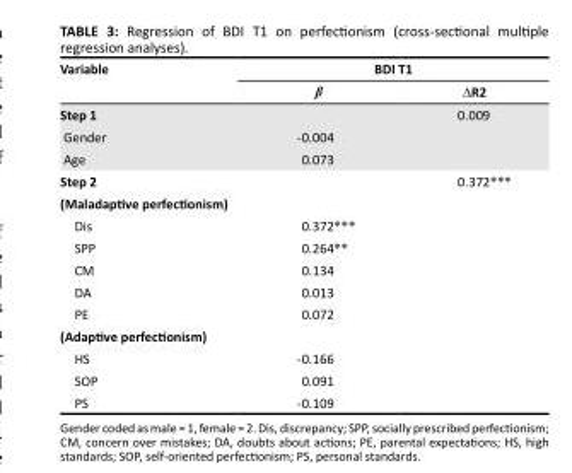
<table><thead><tr><td rowspan="2">Variable</td><td colspan="2">BDI T1</td></tr><tr><td>β</td><td>∆R2</td></tr></thead><tbody><tr><td>Step 1</td><td></td><td>0.009</td></tr><tr><td>Gender</td><td>-0.004</td><td></td></tr><tr><td>Age</td><td>0.073</td><td></td></tr><tr><td>Step 2</td><td></td><td>0.372***</td></tr><tr><td colspan="3">(Maladaptive perfectionism)</td></tr><tr><td>Dis</td><td>0.372***</td><td></td></tr><tr><td>SPP</td><td>0.264**</td><td></td></tr><tr><td>CM</td><td>0.134</td><td></td></tr><tr><td>DA</td><td>0.013</td><td></td></tr><tr><td>PE</td><td>0.072</td><td></td></tr><tr><td colspan="3">(Adaptive perfectionism)</td></tr><tr><td>HS</td><td>-0.166</td><td></td></tr><tr><td>SOP</td><td>0.091</td><td></td></tr><tr><td>PS</td><td>-0.109</td><td></td></tr></tbody></table>